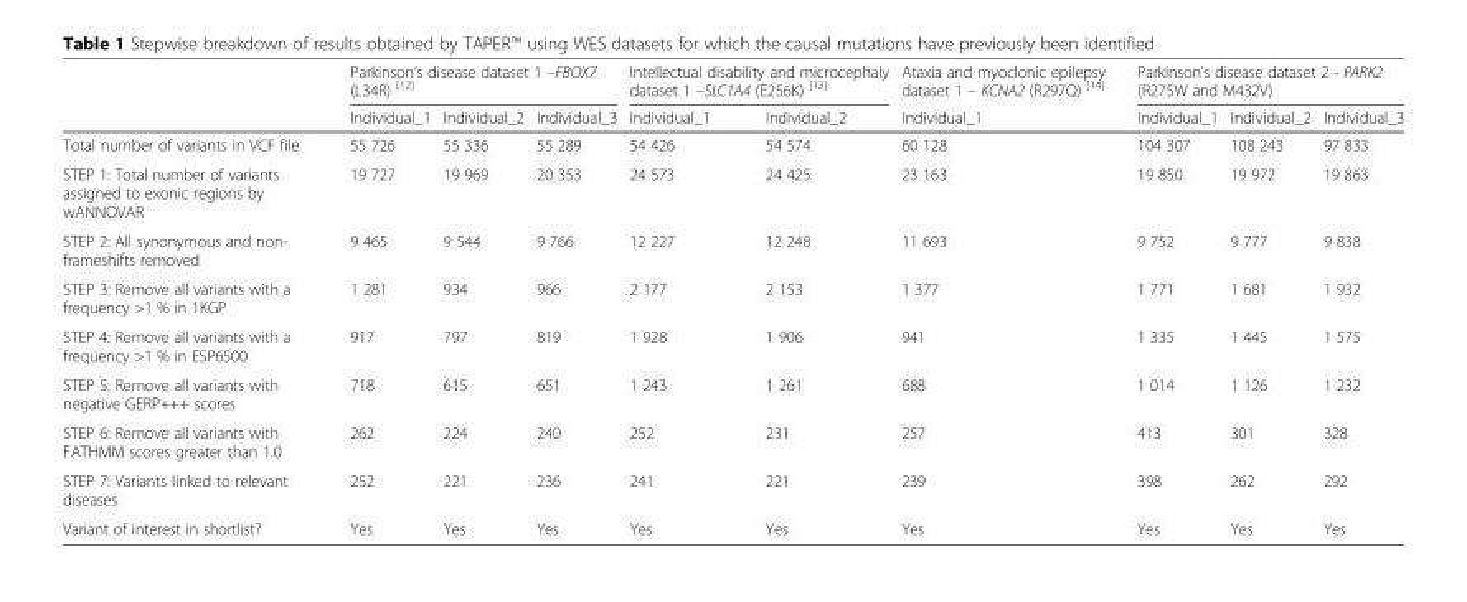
<table><thead><tr><td rowspan="2"></td><td colspan="3">Parkinson’s disease dataset 1 –FBOX7 (L34R) <sup>[12}</sup></td><td colspan="2">Intellectual disability and microcephaly dataset 1 –SLC1A4 (E256K) <sup>[13}</sup></td><td rowspan="2">Ataxia and myoclonic epilepsy dataset 1 – KCNA2 (R297Q) <sup>[14}</sup> Individual_1</td><td colspan="3">Parkinson’s disease dataset 2 - PARK2 (R275W and M432V)</td></tr><tr><td>Individual_1</td><td>Individual_2</td><td>Individual_3</td><td>Individual_1</td><td>Individual_2</td><td>Individual_1</td><td>Individual_2</td><td>Individual_3</td></tr></thead><tbody><tr><td>Total number of variants in VCF file</td><td>55 726</td><td>55 336</td><td>55 289</td><td>54 426</td><td>54 574</td><td>60 128</td><td>104 307</td><td>108 243</td><td>97 833</td></tr><tr><td>STEP 1: Total number of variants assigned to exonic regions by wANNOVAR</td><td>19 727</td><td>19 969</td><td>20 353</td><td>24 573</td><td>24 425</td><td>23 163</td><td>19 850</td><td>19 972</td><td>19 863</td></tr><tr><td>STEP 2: All synonymous and non- frameshifts removed</td><td>9 465</td><td>9 544</td><td>9 766</td><td>12 227</td><td>12 248</td><td>11 693</td><td>9 752</td><td>9 777</td><td>9 838</td></tr><tr><td>STEP 3: Remove all variants with a frequency &gt;1 % in 1KGP</td><td>1 281</td><td>934</td><td>966</td><td>2 177</td><td>2 153</td><td>1 377</td><td>1 771</td><td>1 681</td><td>1 932</td></tr><tr><td>STEP 4: Remove all variants with a frequency &gt;1 % in ESP6500</td><td>917</td><td>797</td><td>819</td><td>1 928</td><td>1 906</td><td>941</td><td>1 335</td><td>1 445</td><td>1 575</td></tr><tr><td>STEP 5: Remove all variants with negative GERP+++ scores</td><td>718</td><td>615</td><td>651</td><td>1 243</td><td>1 261</td><td>688</td><td>1 014</td><td>1 126</td><td>1 232</td></tr><tr><td>STEP 6: Remove all variants with FATHMM scores greater than 1.0</td><td>262</td><td>224</td><td>240</td><td>252</td><td>231</td><td>257</td><td>413</td><td>301</td><td>328</td></tr><tr><td>STEP 7: Variants linked to relevant diseases</td><td>252</td><td>221</td><td>236</td><td>241</td><td>221</td><td>239</td><td>398</td><td>262</td><td>292</td></tr><tr><td>Variant of interest in shortlist?</td><td>Yes</td><td>Yes</td><td>Yes</td><td>Yes</td><td>Yes</td><td>Yes</td><td>Yes</td><td>Yes</td><td>Yes</td></tr></tbody></table>